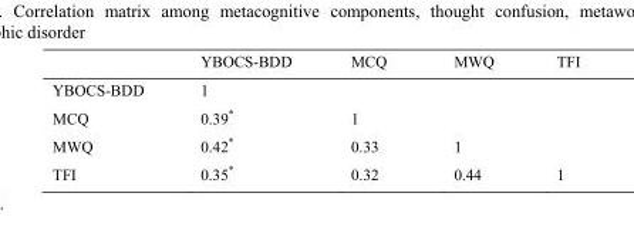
<table><thead><tr><td></td><td>YBOCS-BDD</td><td>MCQ</td><td>MWQ</td><td>TFI</td></tr></thead><tbody><tr><td>YBOCS-BDD</td><td>1</td><td></td><td></td><td></td></tr><tr><td>MCQ</td><td>0.39*</td><td>1</td><td></td><td></td></tr><tr><td>MWQ</td><td>0.42*</td><td>0.33</td><td>1</td><td></td></tr><tr><td>TFI</td><td>0.35*</td><td>0.32</td><td>0.44</td><td>1</td></tr></tbody></table>